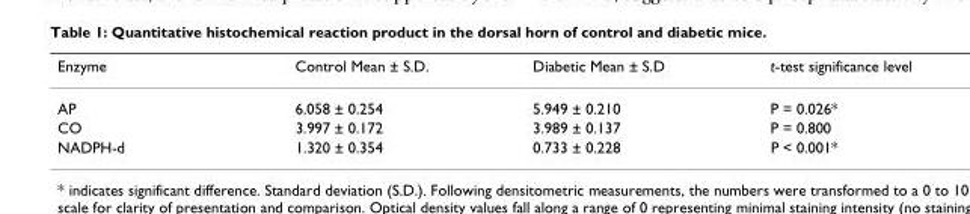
<table><thead><tr><td>Enzyme</td><td>Control Mean ± S.D.</td><td>Diabetic Mean ± S.D</td><td>t-test significance level</td></tr></thead><tbody><tr><td>AP</td><td>6.058 ± 0.254</td><td>5.949 ± 0.210</td><td>P = 0.026*</td></tr><tr><td>CO</td><td>3.997 ± 0.172</td><td>3.989 ± 0.137</td><td>P = 0.800</td></tr><tr><td>NADPH-d</td><td>1.320 ± 0.354</td><td>0.733 ± 0.228</td><td>P &lt; 0.001*</td></tr></tbody></table>